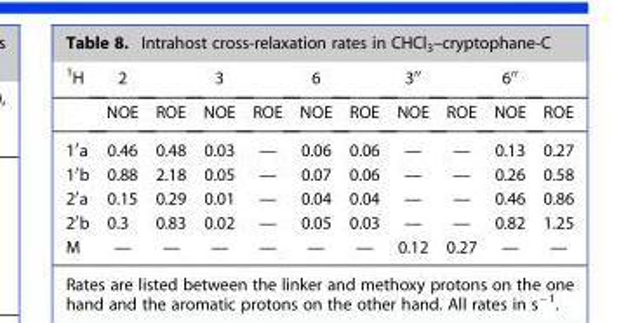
<table><thead><tr><td rowspan="2"><sup>1</sup>H</td><td rowspan="2">2 NOE</td><td rowspan="2">ROE</td><td rowspan="2">3 NOE</td><td rowspan="2">ROE</td><td rowspan="2">6 NOE</td><td rowspan="2">ROE</td><td rowspan="2">300 NOE</td><td rowspan="2">ROE</td><td rowspan="2">600 NOE</td><td rowspan="2">ROE</td></tr><tr></tr></thead><tbody><tr><td>1′a</td><td>0.46</td><td>0.48</td><td>0.03</td><td>—</td><td>0.06</td><td>0.06</td><td>—</td><td>—</td><td>0.13</td><td>0.27</td></tr><tr><td>1′b</td><td>0.88</td><td>2.18</td><td>0.05</td><td>—</td><td>0.07</td><td>0.06</td><td>—</td><td>—</td><td>0.26</td><td>0.58</td></tr><tr><td>2′a</td><td>0.15</td><td>0.29</td><td>0.01</td><td>—</td><td>0.04</td><td>0.04</td><td>—</td><td>—</td><td>0.46</td><td>0.86</td></tr><tr><td>2′b</td><td>0.3</td><td>0.83</td><td>0.02</td><td>—</td><td>0.05</td><td>0.03</td><td>—</td><td>—</td><td>0.82</td><td>1.25</td></tr><tr><td>M</td><td>—</td><td>—</td><td>—</td><td>—</td><td>—</td><td>—</td><td>0.12</td><td>0.27</td><td>—</td><td>—</td></tr></tbody></table>